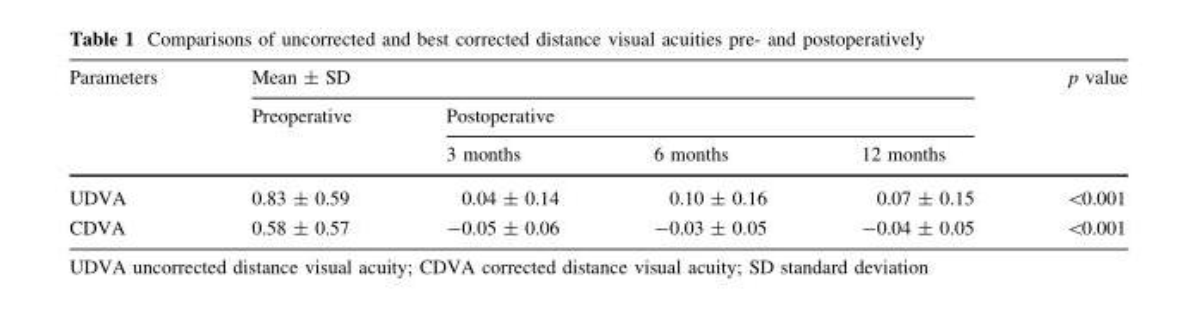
<table><thead><tr><td rowspan="3">Parameters</td><td colspan="4">Mean ± SD</td><td rowspan="3">p value</td></tr><tr><td rowspan="2">Preoperative</td><td colspan="3">Postoperative</td></tr><tr><td>3 months</td><td>6 months</td><td>12 months</td></tr></thead><tbody><tr><td>UDVA</td><td>0.83 ± 0.59</td><td>0.04 ± 0.14</td><td>0.10 ± 0.16</td><td>0.07 ± 0.15</td><td>&lt;0.001</td></tr><tr><td>CDVA</td><td>0.58 ± 0.57</td><td>-0.05 ± 0.06</td><td>-0.03 ± 0.05</td><td>-0.04 ± 0.05</td><td>&lt;0.001</td></tr></tbody></table>